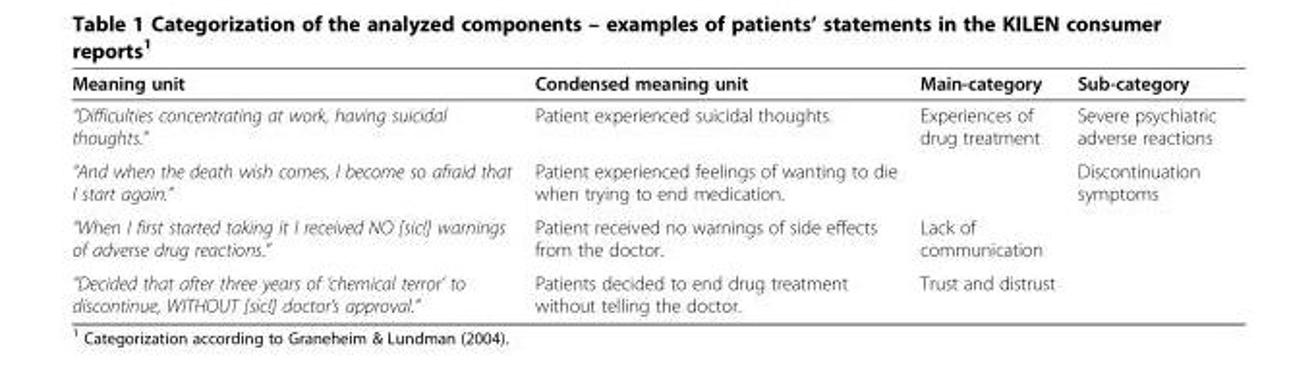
<table><thead><tr><td>Meaning unit</td><td>Condensed meaning unit</td><td>Main-category</td><td>Sub-category</td></tr></thead><tbody><tr><td>“Difficulties concentrating at work, having suicidal thoughts.”</td><td>Patient experienced suicidal thoughts.</td><td>Experiences of drug treatment</td><td>Severe psychiatric adverse reactions</td></tr><tr><td>“And when the death wish comes, I become so afraid that I start again.”</td><td>Patient experienced feelings of wanting to die when trying to end medication.</td><td></td><td>Discontinuation symptoms</td></tr><tr><td>“When I first started taking it I received NO [sic!] warnings of adverse drug reactions.”</td><td>Patient received no warnings of side effects from the doctor.</td><td>Lack of communication</td><td></td></tr><tr><td>“Decided that after three years of ‘chemical terror’ to discontinue, WITHOUT [sic!] doctor’s approval.”</td><td>Patients decided to end drug treatment without telling the doctor.</td><td>Trust and distrust</td><td></td></tr></tbody></table>